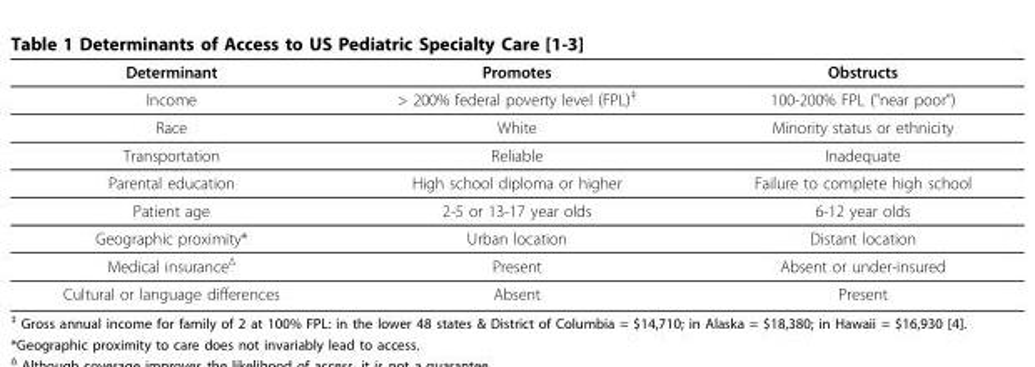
<table><thead><tr><td>Determinant</td><td>Promotes</td><td>Obstructs</td></tr></thead><tbody><tr><td>Income</td><td>&gt; 200% federal poverty level (FPL)<sup>‡</sup></td><td>100-200% FPL (&quot;near poor”)</td></tr><tr><td>Race</td><td>White</td><td>Minority status or ethnicity</td></tr><tr><td>Transportation</td><td>Reliable</td><td>Inadequate</td></tr><tr><td>Parental education</td><td>High school diploma or higher</td><td>Failure to complete high school</td></tr><tr><td>Patient age</td><td>2-5 or 13-17 year olds</td><td>6-12 year olds</td></tr><tr><td>Geographic proximity*</td><td>Urban location</td><td>Distant location</td></tr><tr><td>Medical insurance<sup>Δ</sup></td><td>Present</td><td>Absent or under-insured</td></tr><tr><td>Cultural or language differences</td><td>Absent</td><td>Present</td></tr></tbody></table>